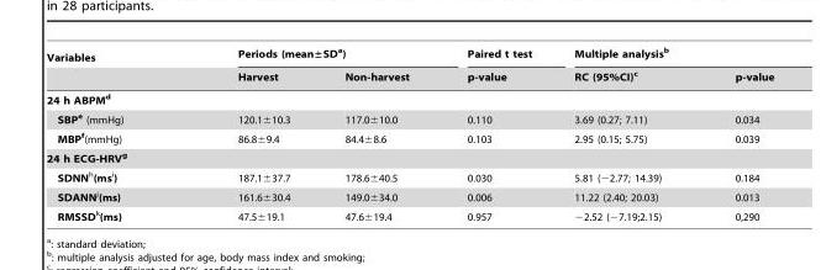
<table><thead><tr><td rowspan="2">Variables</td><td colspan="2">Periods (mean±SD<sup>a</sup>)</td><td rowspan="2">Paired t test p-value</td><td colspan="2">Multiple analysis<sup>b</sup></td></tr><tr><td>Harvest</td><td>Non-harvest</td><td>RC (95%CI)<sup>c</sup></td><td>p-value</td></tr></thead><tbody><tr><td colspan="6">24 h ABPMd</td></tr><tr><td>SBPe (mmHg)</td><td>120.1±10.3</td><td>117.0±10.0</td><td>0.110</td><td>3.69 (0.27; 7.11)</td><td>0.034</td></tr><tr><td>MBPf(mmHg)</td><td>86.8±9.4</td><td>84.4±8.6</td><td>0.103</td><td>2.95 (0.15; 5.75)</td><td>0.039</td></tr><tr><td colspan="6">24 h ECG-HRVg</td></tr><tr><td>SDNNh(msi)</td><td>187.1±37.7</td><td>178.6±40.5</td><td>0.030</td><td>5.81 (−2.77; 14.39)</td><td>0.184</td></tr><tr><td>SDANNj(ms)</td><td>161.6±30.4</td><td>149.0±34.0</td><td>0.006</td><td>11.22 (2.40; 20.03)</td><td>0.013</td></tr><tr><td>RMSSDk(ms)</td><td>47.5±19.1</td><td>47.6±19.4</td><td>0.957</td><td>−2.52 (−7.19;2.15)</td><td>0,290</td></tr></tbody></table>